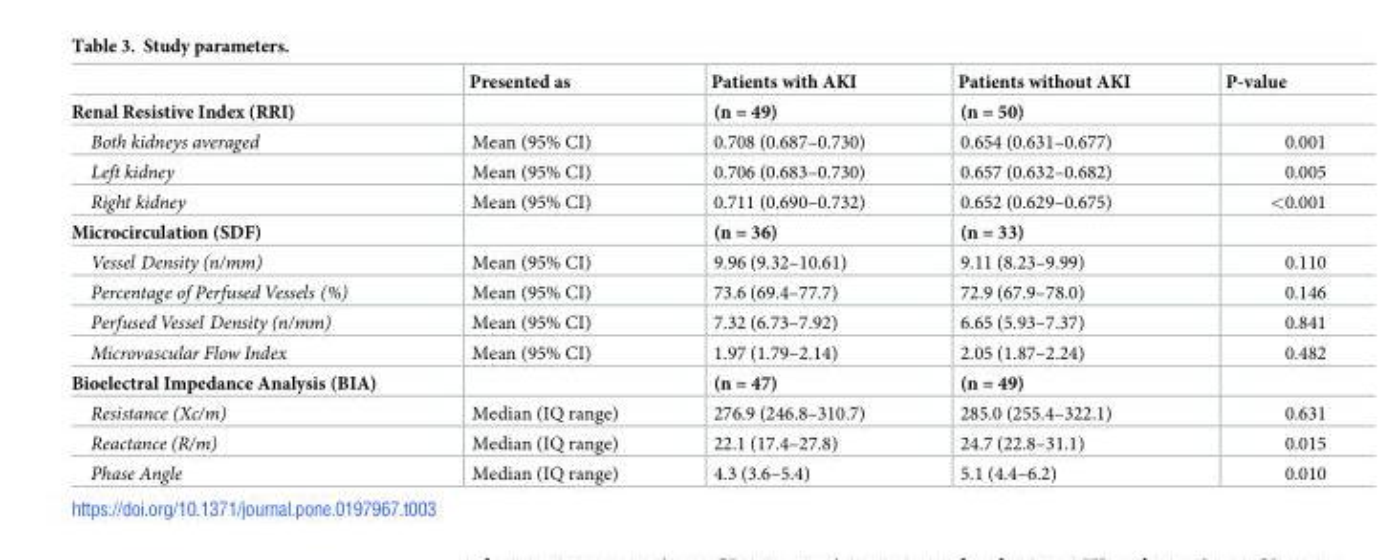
<table><thead><tr><td></td><td>Presented as</td><td>Patients with AKI</td><td>Patients without AKI</td><td>P-value</td></tr></thead><tbody><tr><td>Renal Resistive Index (RRI)</td><td></td><td>(n = 49)</td><td>(n = 50)</td><td></td></tr><tr><td>Both kidneys averaged</td><td>Mean (95% CI)</td><td>0.708 (0.687–0.730)</td><td>0.654 (0.631–0.677)</td><td>0.001</td></tr><tr><td>Left kidney</td><td>Mean (95% CI)</td><td>0.706 (0.683–0.730)</td><td>0.657 (0.632–0.682)</td><td>0.005</td></tr><tr><td>Right kidney</td><td>Mean (95% CI)</td><td>0.711 (0.690–0.732)</td><td>0.652 (0.629–0.675)</td><td>&lt;0.001</td></tr><tr><td>Microcirculation (SDF)</td><td></td><td>(n = 36)</td><td>(n = 33)</td><td></td></tr><tr><td>Vessel Density (n/mm)</td><td>Mean (95% CI)</td><td>9.96 (9.32–10.61)</td><td>9.11 (8.23–9.99)</td><td>0.110</td></tr><tr><td>Percentage of Perfused Vessels (%)</td><td>Mean (95% CI)</td><td>73.6 (69.4–77.7)</td><td>72.9 (67.9–78.0)</td><td>0.146</td></tr><tr><td>Perfused Vessel Density (n/mm)</td><td>Mean (95% CI)</td><td>7.32 (6.73–7.92)</td><td>6.65 (5.93–7.37)</td><td>0.841</td></tr><tr><td>Microvascular Flow Index</td><td>Mean (95% CI)</td><td>1.97 (1.79–2.14)</td><td>2.05 (1.87–2.24)</td><td>0.482</td></tr><tr><td>Bioelectral Impedance Analysis (BIA)</td><td></td><td>(n = 47)</td><td>(n = 49)</td><td></td></tr><tr><td>Resistance (Xc/m)</td><td>Median (IQ range)</td><td>276.9 (246.8–310.7)</td><td>285.0 (255.4–322.1)</td><td>0.631</td></tr><tr><td>Reactance (R/m)</td><td>Median (IQ range)</td><td>22.1 (17.4–27.8)</td><td>24.7 (22.8–31.1)</td><td>0.015</td></tr><tr><td>Phase Angle</td><td>Median (IQ range)</td><td>4.3 (3.6–5.4)</td><td>5.1 (4.4–6.2)</td><td>0.010</td></tr></tbody></table>